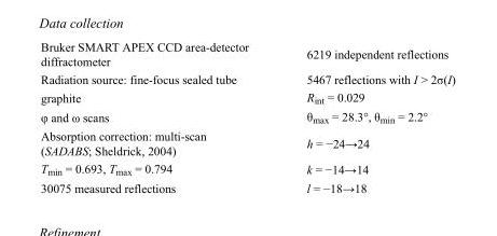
<table><tbody><tr><td>Bruker SMART APEX CCD area-detector diffractometer</td><td>6219 independent reflections</td></tr><tr><td>Radiation source: fine-focus sealed tube</td><td>5467 reflections with I &gt; 2σ(I)</td></tr><tr><td>graphite</td><td>R<sub>int</sub> = 0.029</td></tr><tr><td>φ and ω scans</td><td>θ<sub>max</sub> = 28.3°, θ<sub>min</sub> = 2.2°</td></tr><tr><td>Absorption correction: multi-scan (SADABS; Sheldrick, 2004)</td><td>h = −24→24</td></tr><tr><td>T<sub>min</sub> = 0.693, T<sub>max</sub> = 0.794</td><td>k = −14→14</td></tr><tr><td>30075 measured reflections</td><td>l = −18→18</td></tr></tbody></table>